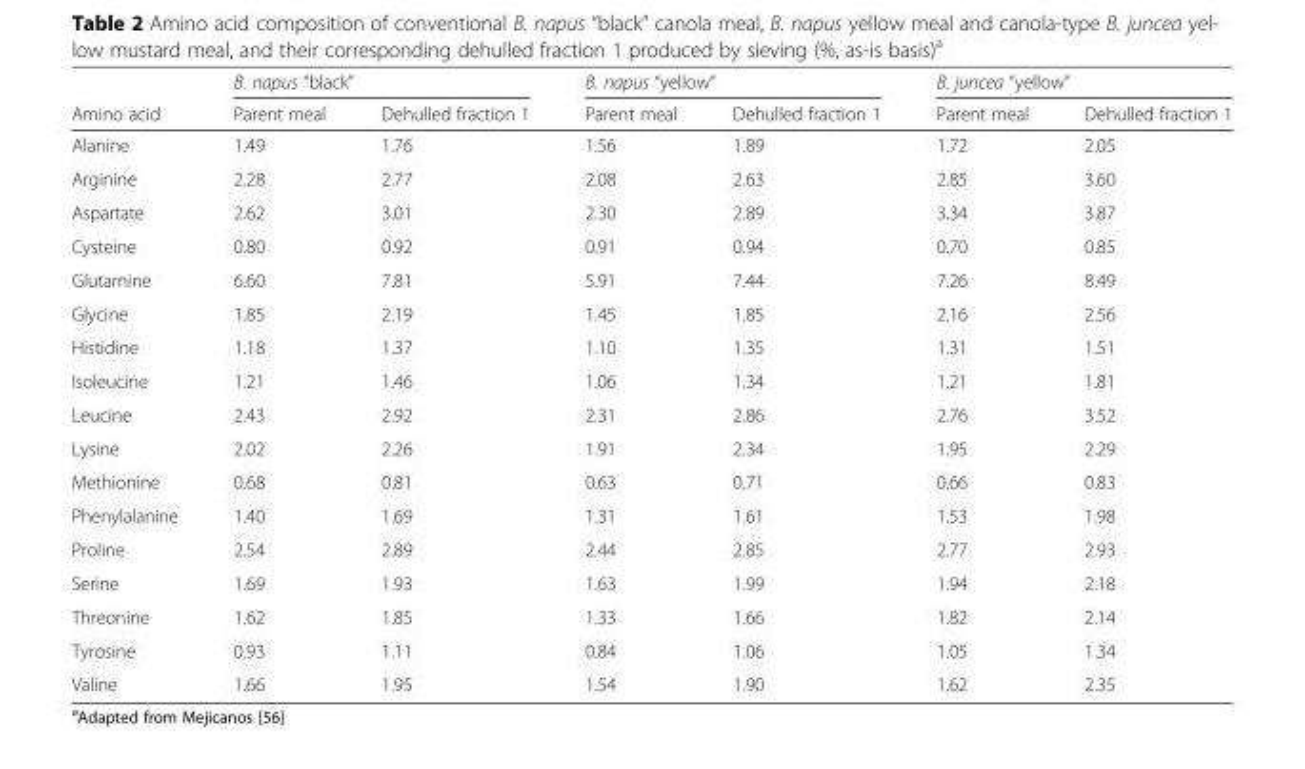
<table><thead><tr><td rowspan="2">Amino acid</td><td colspan="2">B. napus “black”</td><td colspan="2">B. napus “yellow”</td><td colspan="2">B. juncea “yellow”</td></tr><tr><td>Parent meal</td><td>Dehulled fraction 1</td><td>Parent meal</td><td>Dehulled fraction 1</td><td>Parent meal</td><td>Dehulled fraction 1</td></tr></thead><tbody><tr><td>Alanine</td><td>1.49</td><td>1.76</td><td>1.56</td><td>1.89</td><td>1.72</td><td>2.05</td></tr><tr><td>Arginine</td><td>2.28</td><td>2.77</td><td>2.08</td><td>2.63</td><td>2.85</td><td>3.60</td></tr><tr><td>Aspartate</td><td>2.62</td><td>3.01</td><td>2.30</td><td>2.89</td><td>3.34</td><td>3.87</td></tr><tr><td>Cysteine</td><td>0.80</td><td>0.92</td><td>0.91</td><td>0.94</td><td>0.70</td><td>0.85</td></tr><tr><td>Glutamine</td><td>6.60</td><td>7.81</td><td>5.91</td><td>7.44</td><td>7.26</td><td>8.49</td></tr><tr><td>Glycine</td><td>1.85</td><td>2.19</td><td>1.45</td><td>1.85</td><td>2.16</td><td>2.56</td></tr><tr><td>Histidine</td><td>1.18</td><td>1.37</td><td>1.10</td><td>1.35</td><td>1.31</td><td>1.51</td></tr><tr><td>Isoleucine</td><td>1.21</td><td>1.46</td><td>1.06</td><td>1.34</td><td>1.21</td><td>1.81</td></tr><tr><td>Leucine</td><td>2.43</td><td>2.92</td><td>2.31</td><td>2.86</td><td>2.76</td><td>3.52</td></tr><tr><td>Lysine</td><td>2.02</td><td>2.26</td><td>1.91</td><td>2.34</td><td>1.95</td><td>2.29</td></tr><tr><td>Methionine</td><td>0.68</td><td>0.81</td><td>0.63</td><td>0.71</td><td>0.66</td><td>0.83</td></tr><tr><td>Phenylalanine</td><td>1.40</td><td>1.69</td><td>1.31</td><td>1.61</td><td>1.53</td><td>1.98</td></tr><tr><td>Proline</td><td>2.54</td><td>2.89</td><td>2.44</td><td>2.85</td><td>2.77</td><td>2.93</td></tr><tr><td>Serine</td><td>1.69</td><td>1.93</td><td>1.63</td><td>1.99</td><td>1.94</td><td>2.18</td></tr><tr><td>Threonine</td><td>1.62</td><td>1.85</td><td>1.33</td><td>1.66</td><td>1.82</td><td>2.14</td></tr><tr><td>Tyrosine</td><td>0.93</td><td>1.11</td><td>0.84</td><td>1.06</td><td>1.05</td><td>1.34</td></tr><tr><td>Valine</td><td>1.66</td><td>1.95</td><td>1.54</td><td>1.90</td><td>1.62</td><td>2.35</td></tr></tbody></table>